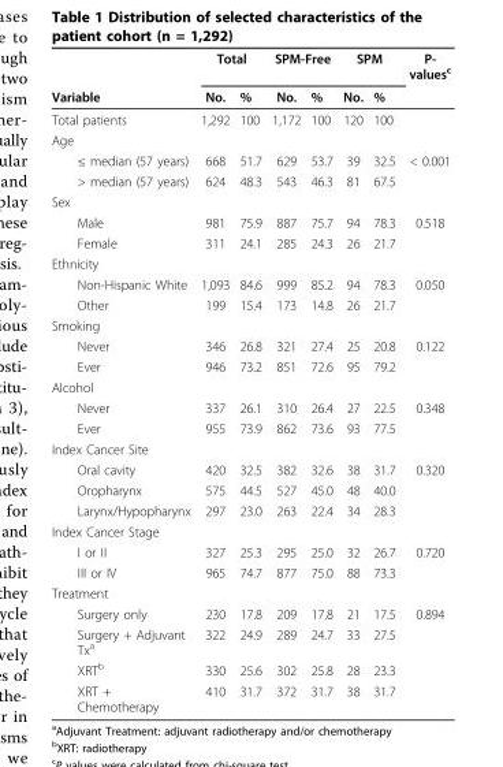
<table><thead><tr><td rowspan="2">Variable</td><td colspan="2">Total</td><td colspan="2">SPM-Free</td><td colspan="2">SPM</td><td rowspan="2">P- values<sup>c</sup></td></tr><tr><td>No.</td><td>%</td><td>No.</td><td>%</td><td>No.</td><td>%</td></tr></thead><tbody><tr><td>Total patients</td><td>1,292</td><td>100</td><td>1,172</td><td>100</td><td>120</td><td>100</td><td></td></tr><tr><td colspan="8">Age</td></tr><tr><td>≤ median (57 years)</td><td>668</td><td>51.7</td><td>629</td><td>53.7</td><td>39</td><td>32.5</td><td>&lt; 0.001</td></tr><tr><td>&gt; median (57 years)</td><td>624</td><td>48.3</td><td>543</td><td>46.3</td><td>81</td><td>67.5</td><td></td></tr><tr><td colspan="8">Sex</td></tr><tr><td>Male</td><td>981</td><td>75.9</td><td>887</td><td>75.7</td><td>94</td><td>78.3</td><td>0.518</td></tr><tr><td>Female</td><td>311</td><td>24.1</td><td>285</td><td>24.3</td><td>26</td><td>21.7</td><td></td></tr><tr><td colspan="8">Ethnicity</td></tr><tr><td>Non-Hispanic White</td><td>1,093</td><td>84.6</td><td>999</td><td>85.2</td><td>94</td><td>78.3</td><td>0.050</td></tr><tr><td>Other</td><td>199</td><td>15.4</td><td>173</td><td>14.8</td><td>26</td><td>21.7</td><td></td></tr><tr><td colspan="8">Smoking</td></tr><tr><td>Never</td><td>346</td><td>26.8</td><td>321</td><td>27.4</td><td>25</td><td>20.8</td><td>0.122</td></tr><tr><td>Ever</td><td>946</td><td>73.2</td><td>851</td><td>72.6</td><td>95</td><td>79.2</td><td></td></tr><tr><td colspan="8">Alcohol</td></tr><tr><td>Never</td><td>337</td><td>26.1</td><td>310</td><td>26.4</td><td>27</td><td>22.5</td><td>0.348</td></tr><tr><td>Ever</td><td>955</td><td>73.9</td><td>862</td><td>73.6</td><td>93</td><td>77.5</td><td></td></tr><tr><td colspan="8">Index Cancer Site</td></tr><tr><td>Oral cavity</td><td>420</td><td>32.5</td><td>382</td><td>32.6</td><td>38</td><td>31.7</td><td>0.320</td></tr><tr><td>Oropharynx</td><td>575</td><td>44.5</td><td>527</td><td>45.0</td><td>48</td><td>40.0</td><td></td></tr><tr><td>Larynx/Hypopharynx</td><td>297</td><td>23.0</td><td>263</td><td>22.4</td><td>34</td><td>28.3</td><td></td></tr><tr><td colspan="8">Index Cancer Stage</td></tr><tr><td>I or II</td><td>327</td><td>25.3</td><td>295</td><td>25.0</td><td>32</td><td>26.7</td><td>0.720</td></tr><tr><td>III or IV</td><td>965</td><td>74.7</td><td>877</td><td>75.0</td><td>88</td><td>73.3</td><td></td></tr><tr><td colspan="8">Treatment</td></tr><tr><td>Surgery only</td><td>230</td><td>17.8</td><td>209</td><td>17.8</td><td>21</td><td>17.5</td><td>0.894</td></tr><tr><td>Surgery + Adjuvant Tx<sup>a</sup></td><td>322</td><td>24.9</td><td>289</td><td>24.7</td><td>33</td><td>27.5</td><td></td></tr><tr><td>XRT<sup>b</sup></td><td>330</td><td>25.6</td><td>302</td><td>25.8</td><td>28</td><td>23.3</td><td></td></tr><tr><td>XRT + Chemotherapy</td><td>410</td><td>31.7</td><td>372</td><td>31.7</td><td>38</td><td>31.7</td><td></td></tr></tbody></table>